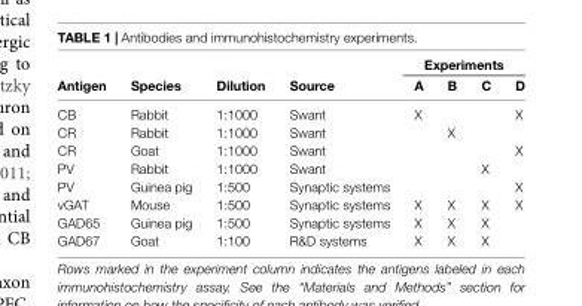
<table><thead><tr><td rowspan="2">Antigen</td><td rowspan="2">Species</td><td rowspan="2">Dilution</td><td rowspan="2">Source</td><td colspan="4">Experiments</td></tr><tr><td>A</td><td>B</td><td>C</td><td>D</td></tr></thead><tbody><tr><td>CB</td><td>Rabbit</td><td>1:1000</td><td>Swant</td><td>X</td><td></td><td></td><td>X</td></tr><tr><td>CR</td><td>Rabbit</td><td>1:1000</td><td>Swant</td><td></td><td>X</td><td></td><td></td></tr><tr><td>CR</td><td>Goat</td><td>1:1000</td><td>Swant</td><td></td><td></td><td></td><td>X</td></tr><tr><td>PV</td><td>Rabbit</td><td>1:1000</td><td>Swant</td><td></td><td></td><td>X</td><td></td></tr><tr><td>PV</td><td>Guinea pig</td><td>1:500</td><td>Synaptic systems</td><td></td><td></td><td></td><td>X</td></tr><tr><td>vGAT</td><td>Mouse</td><td>1:500</td><td>Synaptic systems</td><td>X</td><td>X</td><td>X</td><td>X</td></tr><tr><td>GAD65</td><td>Guinea pig</td><td>1:500</td><td>Synaptic systems</td><td>X</td><td>X</td><td>X</td><td></td></tr><tr><td>GAD67</td><td>Goat</td><td>1:100</td><td>R&amp;D systems</td><td>X</td><td>X</td><td>X</td><td></td></tr></tbody></table>